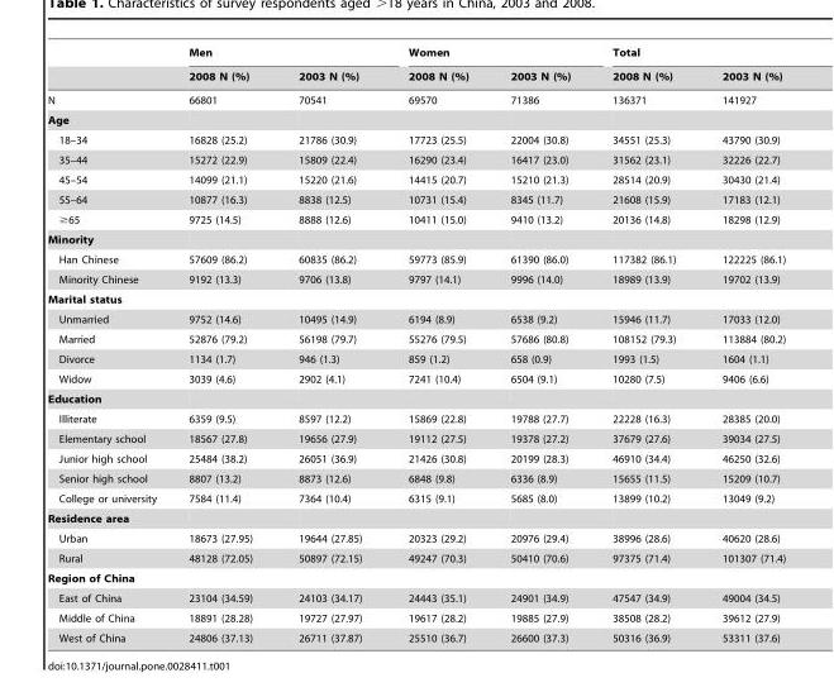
<table><thead><tr><td rowspan="2"></td><td colspan="2">Men</td><td colspan="2">Women</td><td colspan="2">Total</td></tr><tr><td>2008 N (%)</td><td>2003 N (%)</td><td>2008 N (%)</td><td>2003 N (%)</td><td>2008 N (%)</td><td>2003 N (%)</td></tr></thead><tbody><tr><td>N</td><td>66801</td><td>70541</td><td>69570</td><td>71386</td><td>136371</td><td>141927</td></tr><tr><td colspan="7">Age</td></tr><tr><td>18–34</td><td>16828 (25.2)</td><td>21786 (30.9)</td><td>17723 (25.5)</td><td>22004 (30.8)</td><td>34551 (25.3)</td><td>43790 (30.9)</td></tr><tr><td>35–44</td><td>15272 (22.9)</td><td>15809 (22.4)</td><td>16290 (23.4)</td><td>16417 (23.0)</td><td>31562 (23.1)</td><td>32226 (22.7)</td></tr><tr><td>45–54</td><td>14099 (21.1)</td><td>15220 (21.6)</td><td>14415 (20.7)</td><td>15210 (21.3)</td><td>28514 (20.9)</td><td>30430 (21.4)</td></tr><tr><td>55–64</td><td>10877 (16.3)</td><td>8838 (12.5)</td><td>10731 (15.4)</td><td>8345 (11.7)</td><td>21608 (15.9)</td><td>17183 (12.1)</td></tr><tr><td>≥65</td><td>9725 (14.5)</td><td>8888 (12.6)</td><td>10411 (15.0)</td><td>9410 (13.2)</td><td>20136 (14.8)</td><td>18298 (12.9)</td></tr><tr><td colspan="7">Minority</td></tr><tr><td>Han Chinese</td><td>57609 (86.2)</td><td>60835 (86.2)</td><td>59773 (85.9)</td><td>61390 (86.0)</td><td>117382 (86.1)</td><td>122225 (86.1)</td></tr><tr><td>Minority Chinese</td><td>9192 (13.3)</td><td>9706 (13.8)</td><td>9797 (14.1)</td><td>9996 (14.0)</td><td>18989 (13.9)</td><td>19702 (13.9)</td></tr><tr><td colspan="7">Marital status</td></tr><tr><td>Unmarried</td><td>9752 (14.6)</td><td>10495 (14.9)</td><td>6194 (8.9)</td><td>6538 (9.2)</td><td>15946 (11.7)</td><td>17033 (12.0)</td></tr><tr><td>Married</td><td>52876 (79.2)</td><td>56198 (79.7)</td><td>55276 (79.5)</td><td>57686 (80.8)</td><td>108152 (79.3)</td><td>113884 (80.2)</td></tr><tr><td>Divorce</td><td>1134 (1.7)</td><td>946 (1.3)</td><td>859 (1.2)</td><td>658 (0.9)</td><td>1993 (1.5)</td><td>1604 (1.1)</td></tr><tr><td>Widow</td><td>3039 (4.6)</td><td>2902 (4.1)</td><td>7241 (10.4)</td><td>6504 (9.1)</td><td>10280 (7.5)</td><td>9406 (6.6)</td></tr><tr><td colspan="7">Education</td></tr><tr><td>Illiterate</td><td>6359 (9.5)</td><td>8597 (12.2)</td><td>15869 (22.8)</td><td>19788 (27.7)</td><td>22228 (16.3)</td><td>28385 (20.0)</td></tr><tr><td>Elementary school</td><td>18567 (27.8)</td><td>19656 (27.9)</td><td>19112 (27.5)</td><td>19378 (27.2)</td><td>37679 (27.6)</td><td>39034 (27.5)</td></tr><tr><td>Junior high school</td><td>25484 (38.2)</td><td>26051 (36.9)</td><td>21426 (30.8)</td><td>20199 (28.3)</td><td>46910 (34.4)</td><td>46250 (32.6)</td></tr><tr><td>Senior high school</td><td>8807 (13.2)</td><td>8873 (12.6)</td><td>6848 (9.8)</td><td>6336 (8.9)</td><td>15655 (11.5)</td><td>15209 (10.7)</td></tr><tr><td>College or university</td><td>7584 (11.4)</td><td>7364 (10.4)</td><td>6315 (9.1)</td><td>5685 (8.0)</td><td>13899 (10.2)</td><td>13049 (9.2)</td></tr><tr><td colspan="7">Residence area</td></tr><tr><td>Urban</td><td>18673 (27.95)</td><td>19644 (27.85)</td><td>20323 (29.2)</td><td>20976 (29.4)</td><td>38996 (28.6)</td><td>40620 (28.6)</td></tr><tr><td>Rural</td><td>48128 (72.05)</td><td>50897 (72.15)</td><td>49247 (70.3)</td><td>50410 (70.6)</td><td>97375 (71.4)</td><td>101307 (71.4)</td></tr><tr><td colspan="7">Region of China</td></tr><tr><td>East of China</td><td>23104 (34.59)</td><td>24103 (34.17)</td><td>24443 (35.1)</td><td>24901 (34.9)</td><td>47547 (34.9)</td><td>49004 (34.5)</td></tr><tr><td>Middle of China</td><td>18891 (28.28)</td><td>19727 (27.97)</td><td>19617 (28.2)</td><td>19885 (27.9)</td><td>38508 (28.2)</td><td>39612 (27.9)</td></tr><tr><td>West of China</td><td>24806 (37.13)</td><td>26711 (37.87)</td><td>25510 (36.7)</td><td>26600 (37.3)</td><td>50316 (36.9)</td><td>53311 (37.6)</td></tr></tbody></table>